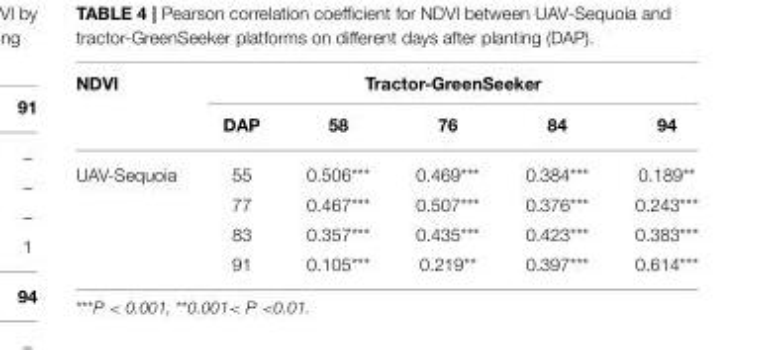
<table><thead><tr><td rowspan="2">NDVI</td><td colspan="5">Tractor-GreenSeeker</td></tr><tr><td>DAP</td><td>58</td><td>76</td><td>84</td><td>94</td></tr></thead><tbody><tr><td rowspan="4">UAV-Sequoia</td><td>55</td><td>0.506***</td><td>0.469***</td><td>0.384***</td><td>0.189**</td></tr><tr><td>77</td><td>0.467***</td><td>0.507***</td><td>0.376***</td><td>0.243***</td></tr><tr><td>83</td><td>0.357***</td><td>0.435***</td><td>0.423***</td><td>0.383***</td></tr><tr><td>91</td><td>0.105***</td><td>0.219**</td><td>0.397***</td><td>0.614***</td></tr></tbody></table>